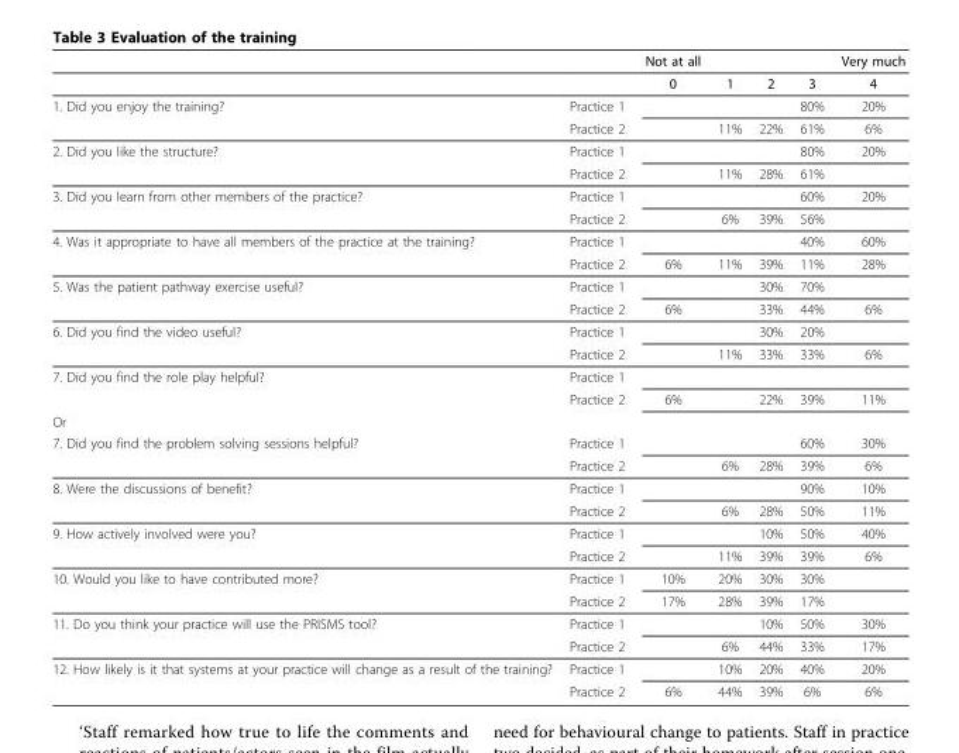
<table><thead><tr><td></td><td></td><td>Not at all</td><td></td><td></td><td></td><td>Very much</td></tr></thead><tbody><tr><td></td><td></td><td>0</td><td>1</td><td>2</td><td>3</td><td>4</td></tr><tr><td rowspan="2">1. Did you enjoy the training?</td><td>Practice 1</td><td></td><td></td><td></td><td>80%</td><td>20%</td></tr><tr><td>Practice 2</td><td></td><td>11%</td><td>22%</td><td>61%</td><td>6%</td></tr><tr><td rowspan="2">2. Did you like the structure?</td><td>Practice 1</td><td></td><td></td><td></td><td>80%</td><td>20%</td></tr><tr><td>Practice 2</td><td></td><td>11%</td><td>28%</td><td>61%</td><td></td></tr><tr><td rowspan="2">3. Did you learn from other members of the practice?</td><td>Practice 1</td><td></td><td></td><td></td><td>60%</td><td>20%</td></tr><tr><td>Practice 2</td><td></td><td>6%</td><td>39%</td><td>56%</td><td></td></tr><tr><td rowspan="2">4. Was it appropriate to have all members of the practice at the training?</td><td>Practice 1</td><td></td><td></td><td></td><td>40%</td><td>60%</td></tr><tr><td>Practice 2</td><td>6%</td><td>11%</td><td>39%</td><td>11%</td><td>28%</td></tr><tr><td rowspan="2">5. Was the patient pathway exercise useful?</td><td>Practice 1</td><td></td><td></td><td>30%</td><td>70%</td><td></td></tr><tr><td>Practice 2</td><td>6%</td><td></td><td>33%</td><td>44%</td><td>6%</td></tr><tr><td rowspan="2">6. Did you find the video useful?</td><td>Practice 1</td><td></td><td></td><td>30%</td><td>20%</td><td></td></tr><tr><td>Practice 2</td><td></td><td>11%</td><td>33%</td><td>33%</td><td>6%</td></tr><tr><td rowspan="2">7. Did you find the role play helpful?</td><td>Practice 1</td><td></td><td></td><td></td><td></td><td></td></tr><tr><td>Practice 2</td><td>6%</td><td></td><td>22%</td><td>39%</td><td>11%</td></tr><tr><td colspan="7">Or</td></tr><tr><td rowspan="2">7. Did you find the problem solving sessions helpful?</td><td>Practice 1</td><td></td><td></td><td></td><td>60%</td><td>30%</td></tr><tr><td>Practice 2</td><td></td><td>6%</td><td>28%</td><td>39%</td><td>6%</td></tr><tr><td rowspan="2">8. Were the discussions of benefit?</td><td>Practice 1</td><td></td><td></td><td></td><td>90%</td><td>10%</td></tr><tr><td>Practice 2</td><td></td><td>6%</td><td>28%</td><td>50%</td><td>11%</td></tr><tr><td rowspan="2">9. How actively involved were you?</td><td>Practice 1</td><td></td><td></td><td>10%</td><td>50%</td><td>40%</td></tr><tr><td>Practice 2</td><td></td><td>11%</td><td>39%</td><td>39%</td><td>6%</td></tr><tr><td rowspan="2">10. Would you like to have contributed more?</td><td>Practice 1</td><td>10%</td><td>20%</td><td>30%</td><td>30%</td><td></td></tr><tr><td>Practice 2</td><td>17%</td><td>28%</td><td>39%</td><td>17%</td><td></td></tr><tr><td rowspan="2">11. Do you think your practice will use the PRISMS tool?</td><td>Practice 1</td><td></td><td></td><td>10%</td><td>50%</td><td>30%</td></tr><tr><td>Practice 2</td><td></td><td>6%</td><td>44%</td><td>33%</td><td>17%</td></tr><tr><td rowspan="2">12. How likely is it that systems at your practice will change as a result of the training?</td><td>Practice 1</td><td></td><td>10%</td><td>20%</td><td>40%</td><td>20%</td></tr><tr><td>Practice 2</td><td>6%</td><td>44%</td><td>39%</td><td>6%</td><td>6%</td></tr></tbody></table>